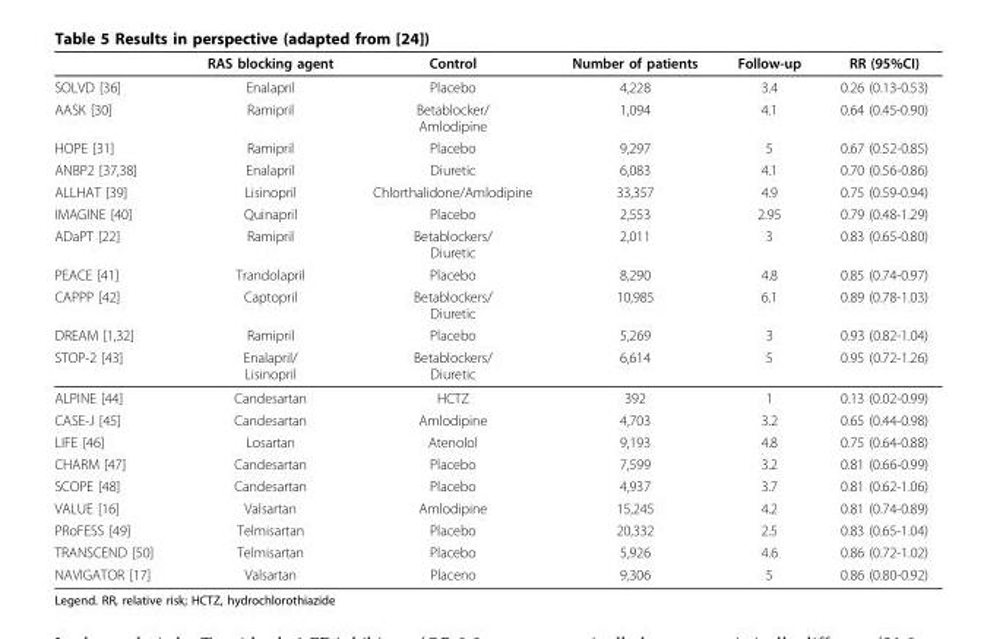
<table><thead><tr><td></td><td>RAS blocking agent</td><td>Control</td><td>Number of patients</td><td>Follow-up</td><td>RR (95%CI)</td></tr></thead><tbody><tr><td>SOLVD [36]</td><td>Enalapril</td><td>Placebo</td><td>4,228</td><td>3.4</td><td>0.26 (0.13-0.53)</td></tr><tr><td>AASK [30]</td><td>Ramipril</td><td>Betablocker/ Amlodipine</td><td>1,094</td><td>4.1</td><td>0.64 (0.45-0.90)</td></tr><tr><td>HOPE [31]</td><td>Ramipril</td><td>Placebo</td><td>9,297</td><td>5</td><td>0.67 (0.52-0.85)</td></tr><tr><td>ANBP2 [37,38]</td><td>Enalapril</td><td>Diuretic</td><td>6,083</td><td>4.1</td><td>0.70 (0.56-0.86)</td></tr><tr><td>ALLHAT [39]</td><td>Lisinopril</td><td>Chlorthalidone/Amlodipine</td><td>33,357</td><td>4.9</td><td>0.75 (0.59-0.94)</td></tr><tr><td>IMAGINE [40]</td><td>Quinapril</td><td>Placebo</td><td>2,553</td><td>2.95</td><td>0.79 (0.48-1.29)</td></tr><tr><td>ADaPT [22]</td><td>Ramipril</td><td>Betablockers/ Diuretic</td><td>2,011</td><td>3</td><td>0.83 (0.65-0.80)</td></tr><tr><td>PEACE [41]</td><td>Trandolapril</td><td>Placebo</td><td>8,290</td><td>4.8</td><td>0.85 (0.74-0.97)</td></tr><tr><td>CAPPP [42]</td><td>Captopril</td><td>Betablockers/ Diuretic</td><td>10,985</td><td>6.1</td><td>0.89 (0.78-1.03)</td></tr><tr><td>DREAM [1,32]</td><td>Ramipril</td><td>Placebo</td><td>5,269</td><td>3</td><td>0.93 (0.82-1.04)</td></tr><tr><td>STOP-2 [43]</td><td>Enalapril/ Lisinopril</td><td>Betablockers/ Diuretic</td><td>6,614</td><td>5</td><td>0.95 (0.72-1.26)</td></tr><tr><td>ALPINE [44]</td><td>Candesartan</td><td>HCTZ</td><td>392</td><td>1</td><td>0.13 (0.02-0.99)</td></tr><tr><td>CASE-J [45]</td><td>Candesartan</td><td>Amlodipine</td><td>4,703</td><td>3.2</td><td>0.65 (0.44-0.98)</td></tr><tr><td>LIFE [46]</td><td>Losartan</td><td>Atenolol</td><td>9,193</td><td>4.8</td><td>0.75 (0.64-0.88)</td></tr><tr><td>CHARM [47]</td><td>Candesartan</td><td>Placebo</td><td>7,599</td><td>3.2</td><td>0.81 (0.66-0.99)</td></tr><tr><td>SCOPE [48]</td><td>Candesartan</td><td>Placebo</td><td>4,937</td><td>3.7</td><td>0.81 (0.62-1.06)</td></tr><tr><td>VALUE [16]</td><td>Valsartan</td><td>Amlodipine</td><td>15,245</td><td>4.2</td><td>0.81 (0.74-0.89)</td></tr><tr><td>PRoFESS [49]</td><td>Telmisartan</td><td>Placebo</td><td>20,332</td><td>2.5</td><td>0.83 (0.65-1.04)</td></tr><tr><td>TRANSCEND [50]</td><td>Telmisartan</td><td>Placebo</td><td>5,926</td><td>4.6</td><td>0.86 (0.72-1.02)</td></tr><tr><td>NAVIGATOR [17]</td><td>Valsartan</td><td>Placeno</td><td>9,306</td><td>5</td><td>0.86 (0.80-0.92)</td></tr></tbody></table>